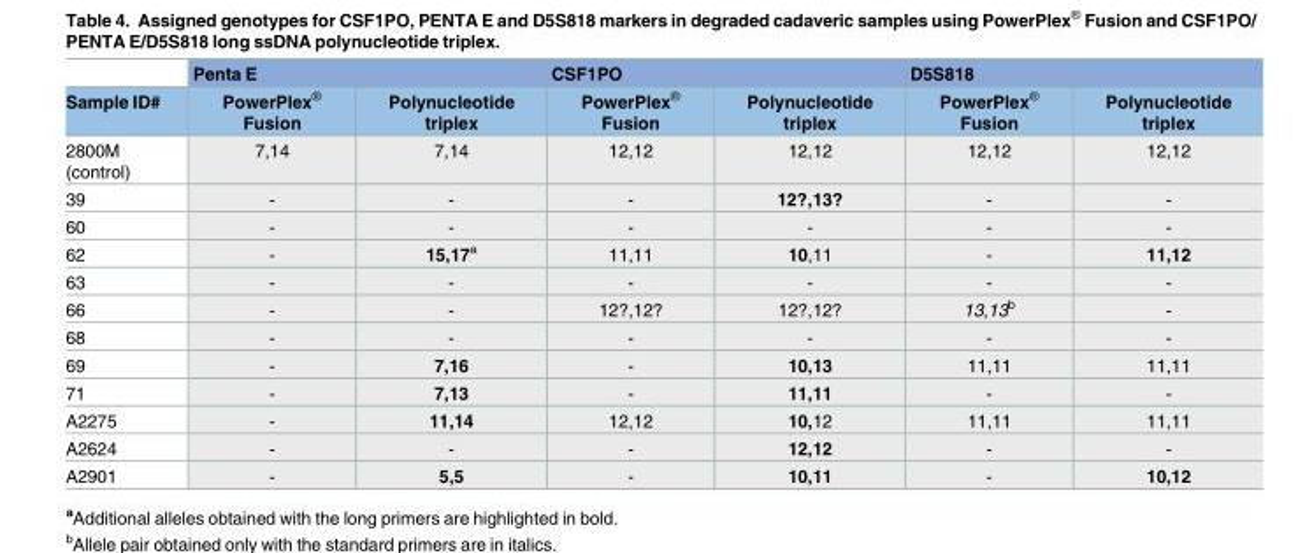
<table><thead><tr><td rowspan="2">Sample ID#</td><td colspan="2">Penta E</td><td colspan="2">CSF1PO</td><td colspan="2">D5S818</td></tr><tr><td>PowerPlex<sup>®</sup> Fusion</td><td>Polynucleotide triplex</td><td>PowerPlex<sup>®</sup> Fusion</td><td>Polynucleotide triplex</td><td>PowerPlex<sup>®</sup> Fusion</td><td>Polynucleotide triplex</td></tr></thead><tbody><tr><td>2800M (control)</td><td>7,14</td><td>7,14</td><td>12,12</td><td>12,12</td><td>12,12</td><td>12,12</td></tr><tr><td>39</td><td>-</td><td>-</td><td>-</td><td>12?,13?</td><td>-</td><td>-</td></tr><tr><td>60</td><td>-</td><td>-</td><td>-</td><td>-</td><td>-</td><td>-</td></tr><tr><td>62</td><td>-</td><td>15,17<sup>a</sup></td><td>11,11</td><td>10,11</td><td>-</td><td>11,12</td></tr><tr><td>63</td><td>-</td><td>-</td><td>-</td><td>-</td><td>-</td><td>-</td></tr><tr><td>66</td><td>-</td><td>-</td><td>12?,12?</td><td>12?,12?</td><td>13,13<sup>b</sup></td><td>-</td></tr><tr><td>68</td><td>-</td><td>-</td><td>-</td><td>-</td><td>-</td><td>-</td></tr><tr><td>69</td><td>-</td><td>7,16</td><td>-</td><td>10,13</td><td>11,11</td><td>11,11</td></tr><tr><td>71</td><td>-</td><td>7,13</td><td>-</td><td>11,11</td><td>-</td><td>-</td></tr><tr><td>A2275</td><td>-</td><td>11,14</td><td>12,12</td><td>10,12</td><td>11,11</td><td>11,11</td></tr><tr><td>A2624</td><td>-</td><td>-</td><td>-</td><td>12,12</td><td>-</td><td>-</td></tr><tr><td>A2901</td><td>-</td><td>5,5</td><td>-</td><td>10,11</td><td>-</td><td>10,12</td></tr></tbody></table>